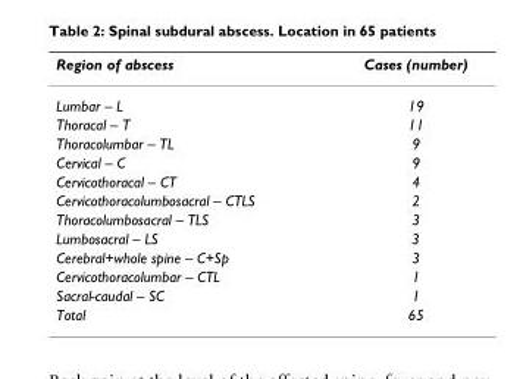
<table><thead><tr><td>Region of abscess</td><td>Cases (number)</td></tr></thead><tbody><tr><td>Lumbar – L</td><td>19</td></tr><tr><td>Thoracal – T</td><td>11</td></tr><tr><td>Thoracolumbar – TL</td><td>9</td></tr><tr><td>Cervical – C</td><td>9</td></tr><tr><td>Cervicothoracal – CT</td><td>4</td></tr><tr><td>Cervicothoracolumbosacral – CTLS</td><td>2</td></tr><tr><td>Thoracolumbosacral – TLS</td><td>3</td></tr><tr><td>Lumbosacral – LS</td><td>3</td></tr><tr><td>Cerebral+whole spine – C+Sp</td><td>3</td></tr><tr><td>Cervicothoracolumbar – CTL</td><td>1</td></tr><tr><td>Sacral-caudal – SC</td><td>1</td></tr><tr><td>Total</td><td>65</td></tr></tbody></table>